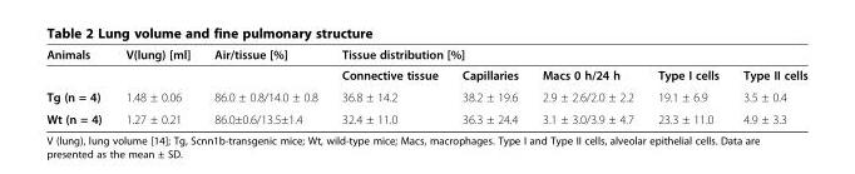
<table><thead><tr><td rowspan="2">Animals</td><td rowspan="2">V(lung) [ml]</td><td rowspan="2">Air/tissue [%]</td><td colspan="5">Tissue distribution [%]</td></tr><tr><td>Connective tissue</td><td>Capillaries</td><td>Macs 0 h/24 h</td><td>Type I cells</td><td>Type II cells</td></tr></thead><tbody><tr><td>Tg (n = 4)</td><td>1.48 ± 0.06</td><td>86.0 ± 0.8/14.0 ± 0.8</td><td>36.8 ± 14.2</td><td>38.2 ± 19.6</td><td>2.9 ± 2.6/2.0 ± 2.2</td><td>19.1 ± 6.9</td><td>3.5 ± 0.4</td></tr><tr><td>Wt (n = 4)</td><td>1.27 ± 0.21</td><td>86.0±0.6/13.5±1.4</td><td>32.4 ± 11.0</td><td>36.3 ± 24.4</td><td>3.1 ± 3.0/3.9 ± 4.7</td><td>23.3 ± 11.0</td><td>4.9 ± 3.3</td></tr></tbody></table>